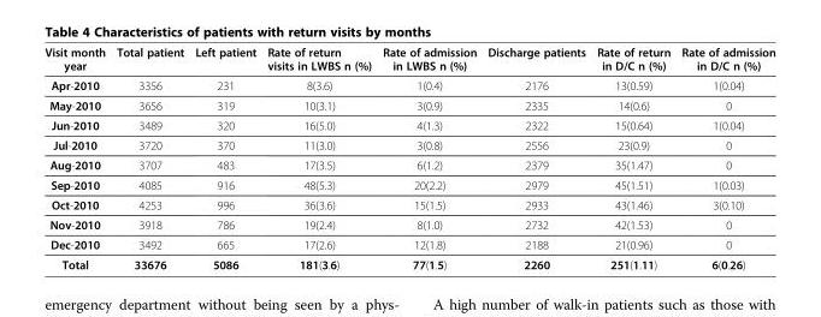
<table><thead><tr><td>Visit month year</td><td>Total patient</td><td>Left patient</td><td>Rate of return visits in LWBS n (%)</td><td>Rate of admission in LWBS n (%)</td><td>Discharge patients</td><td>Rate of return in D/C n (%)</td><td>Rate of admission in D/C n (%)</td></tr></thead><tbody><tr><td>Apr-2010</td><td>3356</td><td>231</td><td>8(3.6)</td><td>1(0.4)</td><td>2176</td><td>13(0.59)</td><td>1(0.04)</td></tr><tr><td>May-2010</td><td>3656</td><td>319</td><td>10(3.1)</td><td>3(0.9)</td><td>2335</td><td>14(0.6)</td><td>0</td></tr><tr><td>Jun-2010</td><td>3489</td><td>320</td><td>16(5.0)</td><td>4(1.3)</td><td>2322</td><td>15(0.64)</td><td>1(0.04)</td></tr><tr><td>Jul-2010</td><td>3720</td><td>370</td><td>11(3.0)</td><td>3(0.8)</td><td>2556</td><td>23(0.9)</td><td>0</td></tr><tr><td>Aug-2010</td><td>3707</td><td>483</td><td>17(3.5)</td><td>6(1.2)</td><td>2379</td><td>35(1.47)</td><td>0</td></tr><tr><td>Sep-2010</td><td>4085</td><td>916</td><td>48(5.3)</td><td>20(2.2)</td><td>2979</td><td>45(1.51)</td><td>1(0.03)</td></tr><tr><td>Oct-2010</td><td>4253</td><td>996</td><td>36(3.6)</td><td>15(1.5)</td><td>2933</td><td>43(1.46)</td><td>3(0.10)</td></tr><tr><td>Nov-2010</td><td>3918</td><td>786</td><td>19(2.4)</td><td>8(1.0)</td><td>2732</td><td>42(1.53)</td><td>0</td></tr><tr><td>Dec-2010</td><td>3492</td><td>665</td><td>17(2.6)</td><td>12(1.8)</td><td>2188</td><td>21(0.96)</td><td>0</td></tr><tr><td>Total</td><td>33676</td><td>5086</td><td>181(3.6)</td><td>77(1.5)</td><td>2260</td><td>251(1.11)</td><td>6(0.26)</td></tr></tbody></table>